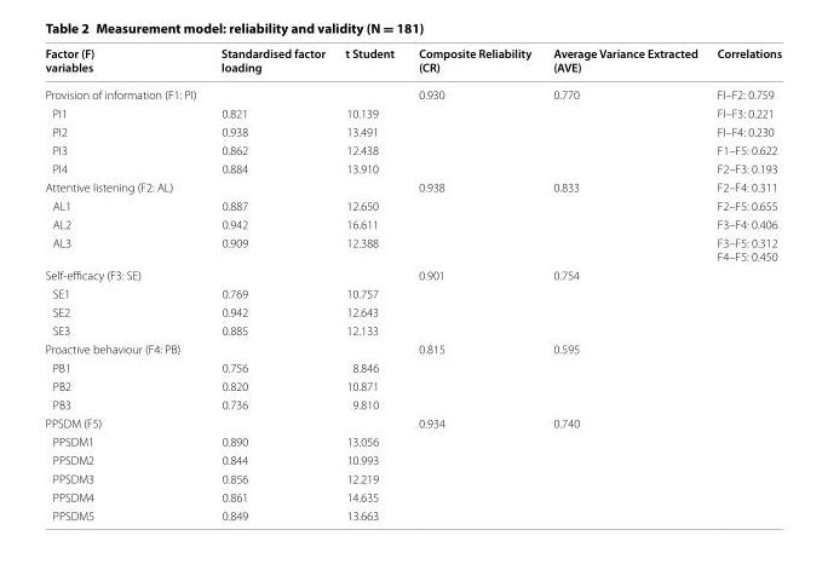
<table><thead><tr><td>Factor (F) variables</td><td>Standardised factor loading</td><td>t Student</td><td>Composite Reliability (CR)</td><td>Average Variance Extracted (AVE)</td><td>Correlations</td></tr></thead><tbody><tr><td>Provision of information (F1: PI)</td><td></td><td></td><td>0.930</td><td>0.770</td><td>FI–F2: 0.759</td></tr><tr><td>PI1</td><td>0.821</td><td>10.139</td><td></td><td></td><td>FI–F3: 0.221</td></tr><tr><td>PI2</td><td>0.938</td><td>13.491</td><td></td><td></td><td>FI–F4: 0.230</td></tr><tr><td>PI3</td><td>0.862</td><td>12.438</td><td></td><td></td><td>F1–F5: 0.622</td></tr><tr><td>PI4</td><td>0.884</td><td>13.910</td><td></td><td></td><td>F2–F3: 0.193</td></tr><tr><td>Attentive listening (F2: AL)</td><td></td><td></td><td>0.938</td><td>0.833</td><td>F2–F4: 0.311</td></tr><tr><td>AL1</td><td>0.887</td><td>12.650</td><td></td><td></td><td>F2–F5: 0.655</td></tr><tr><td>AL2</td><td>0.942</td><td>16.611</td><td></td><td></td><td>F3–F4: 0.406</td></tr><tr><td>AL3</td><td>0.909</td><td>12.388</td><td></td><td></td><td>F3–F5: 0.312 F4–F5: 0.450</td></tr><tr><td>Self‑efficacy (F3: SE)</td><td></td><td></td><td>0.901</td><td>0.754</td><td></td></tr><tr><td>SE1</td><td>0.769</td><td>10.757</td><td></td><td></td><td></td></tr><tr><td>SE2</td><td>0.942</td><td>12.643</td><td></td><td></td><td></td></tr><tr><td>SE3</td><td>0.885</td><td>12.133</td><td></td><td></td><td></td></tr><tr><td>Proactive behaviour (F4: PB)</td><td></td><td></td><td>0.815</td><td>0.595</td><td></td></tr><tr><td>PB1</td><td>0.756</td><td>8.846</td><td></td><td></td><td></td></tr><tr><td>PB2</td><td>0.820</td><td>10.871</td><td></td><td></td><td></td></tr><tr><td>PB3</td><td>0.736</td><td>9.810</td><td></td><td></td><td></td></tr><tr><td>PPSDM (F5)</td><td></td><td></td><td>0.934</td><td>0.740</td><td></td></tr><tr><td>PPSDM1</td><td>0.890</td><td>13.056</td><td></td><td></td><td></td></tr><tr><td>PPSDM2</td><td>0.844</td><td>10.993</td><td></td><td></td><td></td></tr><tr><td>PPSDM3</td><td>0.856</td><td>12.219</td><td></td><td></td><td></td></tr><tr><td>PPSDM4</td><td>0.861</td><td>14.635</td><td></td><td></td><td></td></tr><tr><td>PPSDM5</td><td>0.849</td><td>13.663</td><td></td><td></td><td></td></tr></tbody></table>